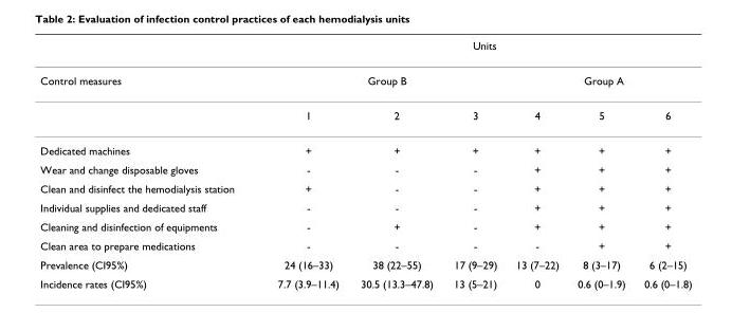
<table><thead><tr><td rowspan="3">Control measures</td><td colspan="6">Units</td></tr><tr><td colspan="3">Group B</td><td colspan="3">Group A</td></tr><tr><td>1</td><td>2</td><td>3</td><td>4</td><td>5</td><td>6</td></tr></thead><tbody><tr><td>Dedicated machines</td><td>+</td><td>+</td><td>+</td><td>+</td><td>+</td><td>+</td></tr><tr><td>Wear and change disposable gloves</td><td>-</td><td>-</td><td>-</td><td>+</td><td>+</td><td>+</td></tr><tr><td>Clean and disinfect the hemodialysis station</td><td>+</td><td>-</td><td>-</td><td>+</td><td>+</td><td>+</td></tr><tr><td>Individual supplies and dedicated staff</td><td>-</td><td>-</td><td>-</td><td>+</td><td>+</td><td>+</td></tr><tr><td>Cleaning and disinfection of equipments</td><td>-</td><td>+</td><td>-</td><td>+</td><td>+</td><td>+</td></tr><tr><td>Clean area to prepare medications</td><td>-</td><td>-</td><td>-</td><td>-</td><td>+</td><td>+</td></tr><tr><td>Prevalence (CI95%)</td><td>24 (16–33)</td><td>38 (22–55)</td><td>17 (9–29)</td><td>13 (7–22)</td><td>8 (3–17)</td><td>6 (2–15)</td></tr><tr><td>Incidence rates (CI95%)</td><td>7.7 (3.9–11.4)</td><td>30.5 (13.3–47.8)</td><td>13 (5–21)</td><td>0</td><td>0.6 (0–1.9)</td><td>0.6 (0–1.8)</td></tr></tbody></table>